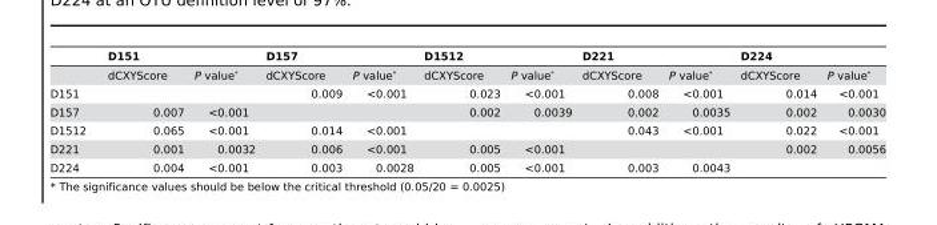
<table><thead><tr><td rowspan="2"></td><td colspan="2">D151</td><td colspan="2">D157</td><td colspan="2">D1512</td><td colspan="2">D221</td><td colspan="2">D224</td></tr><tr><td>dCXYScore</td><td>P value*</td><td>dCXYScore</td><td>P value*</td><td>dCXYScore</td><td>P value*</td><td>dCXYScore</td><td>P value*</td><td>dCXYScore</td><td>P value*</td></tr></thead><tbody><tr><td>D151</td><td></td><td></td><td>0.009</td><td>&lt;0.001</td><td>0.023</td><td>&lt;0.001</td><td>0.008</td><td>&lt;0.001</td><td>0.014</td><td>&lt;0.001</td></tr><tr><td>D157</td><td>0.007</td><td>&lt;0.001</td><td></td><td></td><td>0.002</td><td>0.0039</td><td>0.002</td><td>0.0035</td><td>0.002</td><td>0.0030</td></tr><tr><td>D1512</td><td>0.065</td><td>&lt;0.001</td><td>0.014</td><td>&lt;0.001</td><td></td><td></td><td>0.043</td><td>&lt;0.001</td><td>0.022</td><td>&lt;0.001</td></tr><tr><td>D221</td><td>0.001</td><td>0.0032</td><td>0.006</td><td>&lt;0.001</td><td>0.005</td><td>&lt;0.001</td><td></td><td></td><td>0.002</td><td>0.0056</td></tr><tr><td>D224</td><td>0.004</td><td>&lt;0.001</td><td>0.003</td><td>0.0028</td><td>0.005</td><td>&lt;0.001</td><td>0.003</td><td>0.0043</td><td></td><td></td></tr></tbody></table>